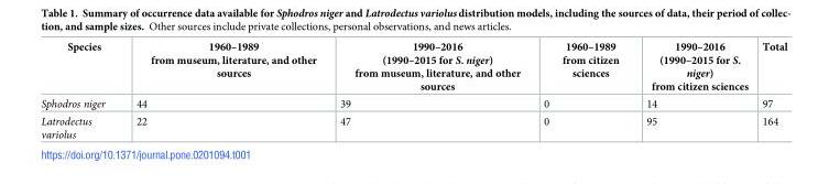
<table><thead><tr><td>Species</td><td>1960–1989 from museum, literature, and other sources</td><td>1990–2016 (1990–2015 for S. niger) from museum, literature, and other sources</td><td>1960–1989 from citizen sciences</td><td>1990–2016 (1990–2015 for S. niger) from citizen sciences</td><td>Total</td></tr></thead><tbody><tr><td>Sphodros niger</td><td>44</td><td>39</td><td>0</td><td>14</td><td>97</td></tr><tr><td>Latrodectus variolus</td><td>22</td><td>47</td><td>0</td><td>95</td><td>164</td></tr></tbody></table>